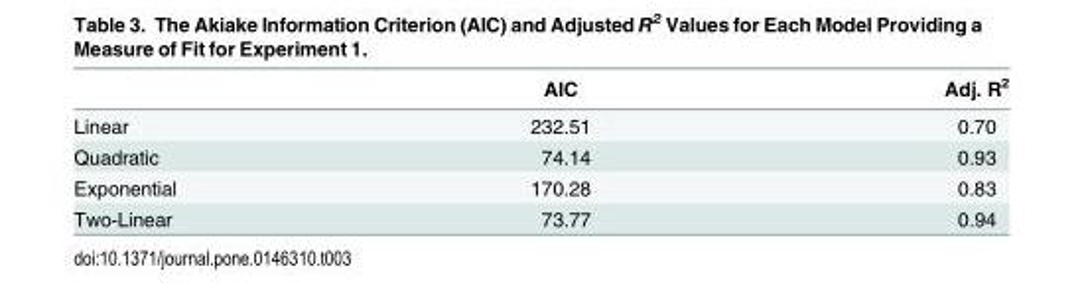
<table><thead><tr><td></td><td>AIC</td><td>Adj. R<sup>2</sup></td></tr></thead><tbody><tr><td>Linear</td><td>232.51</td><td>0.70</td></tr><tr><td>Quadratic</td><td>74.14</td><td>0.93</td></tr><tr><td>Exponential</td><td>170.28</td><td>0.83</td></tr><tr><td>Two-Linear</td><td>73.77</td><td>0.94</td></tr></tbody></table>